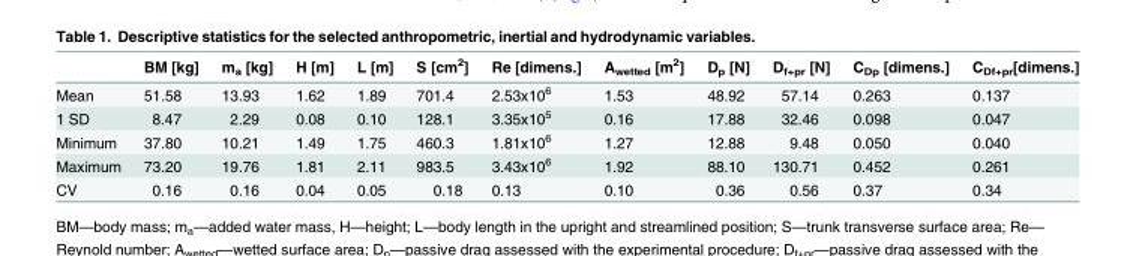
<table><thead><tr><td></td><td>BM [kg]</td><td>m<sub>a</sub> [kg]</td><td>H [m]</td><td>L [m]</td><td>S [cm<sup>2</sup>]</td><td>Re [dimens.]</td><td>A<sub>wetted</sub> [m<sup>2</sup>]</td><td>D<sub>p</sub> [N]</td><td>D<sub>f+pr</sub> [N]</td><td>C<sub>Dp</sub> [dimens.]</td><td>C<sub>Df+pr</sub>[dimens.]</td></tr></thead><tbody><tr><td>Mean</td><td>51.58</td><td>13.93</td><td>1.62</td><td>1.89</td><td>701.4</td><td>2.53x10<sup>6</sup></td><td>1.53</td><td>48.92</td><td>57.14</td><td>0.263</td><td>0.137</td></tr><tr><td>1 SD</td><td>8.47</td><td>2.29</td><td>0.08</td><td>0.10</td><td>128.1</td><td>3.35x10<sup>5</sup></td><td>0.16</td><td>17.88</td><td>32.46</td><td>0.098</td><td>0.047</td></tr><tr><td>Minimum</td><td>37.80</td><td>10.21</td><td>1.49</td><td>1.75</td><td>460.3</td><td>1.81x10<sup>6</sup></td><td>1.27</td><td>12.88</td><td>9.48</td><td>0.050</td><td>0.040</td></tr><tr><td>Maximum</td><td>73.20</td><td>19.76</td><td>1.81</td><td>2.11</td><td>983.5</td><td>3.43x10<sup>6</sup></td><td>1.92</td><td>88.10</td><td>130.71</td><td>0.452</td><td>0.261</td></tr><tr><td>CV</td><td>0.16</td><td>0.16</td><td>0.04</td><td>0.05</td><td>0.18</td><td>0.13</td><td>0.10</td><td>0.36</td><td>0.56</td><td>0.37</td><td>0.34</td></tr></tbody></table>